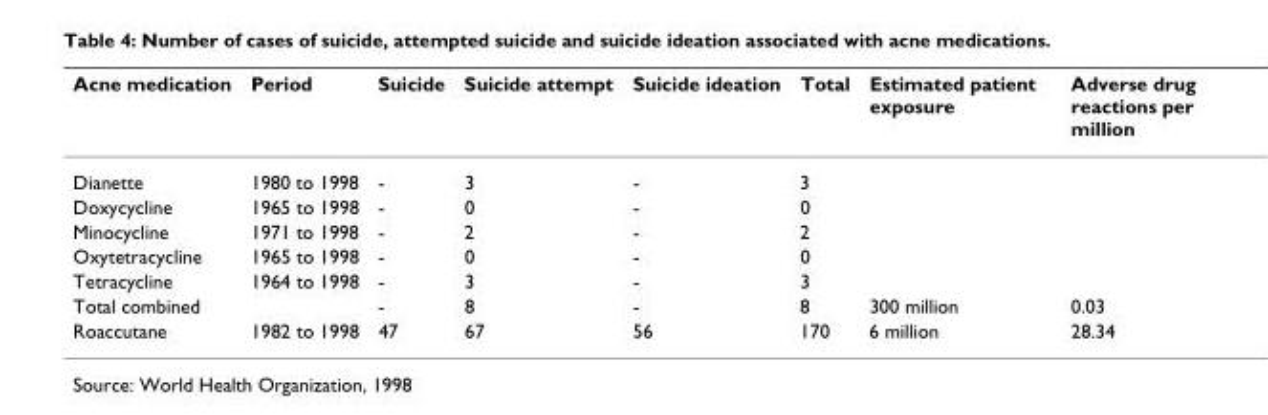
<table><thead><tr><td>Acne medication</td><td>Period</td><td>Suicide</td><td>Suicide attempt</td><td>Suicide ideation</td><td>Total</td><td>Estimated patient exposure</td><td>Adverse drug reactions per million</td></tr></thead><tbody><tr><td>Dianette</td><td>1980 to 1998</td><td>-</td><td>3</td><td>-</td><td>3</td><td></td><td></td></tr><tr><td>Doxycycline</td><td>1965 to 1998</td><td>-</td><td>0</td><td>-</td><td>0</td><td></td><td></td></tr><tr><td>Minocycline</td><td>1971 to 1998</td><td>-</td><td>2</td><td>-</td><td>2</td><td></td><td></td></tr><tr><td>Oxytetracycline</td><td>1965 to 1998</td><td>-</td><td>0</td><td>-</td><td>0</td><td></td><td></td></tr><tr><td>Tetracycline</td><td>1964 to 1998</td><td>-</td><td>3</td><td>-</td><td>3</td><td></td><td></td></tr><tr><td>Total combined</td><td></td><td>-</td><td>8</td><td>-</td><td>8</td><td>300 million</td><td>0.03</td></tr><tr><td>Roaccutane</td><td>1982 to 1998</td><td>47</td><td>67</td><td>56</td><td>170</td><td>6 million</td><td>28.34</td></tr></tbody></table>